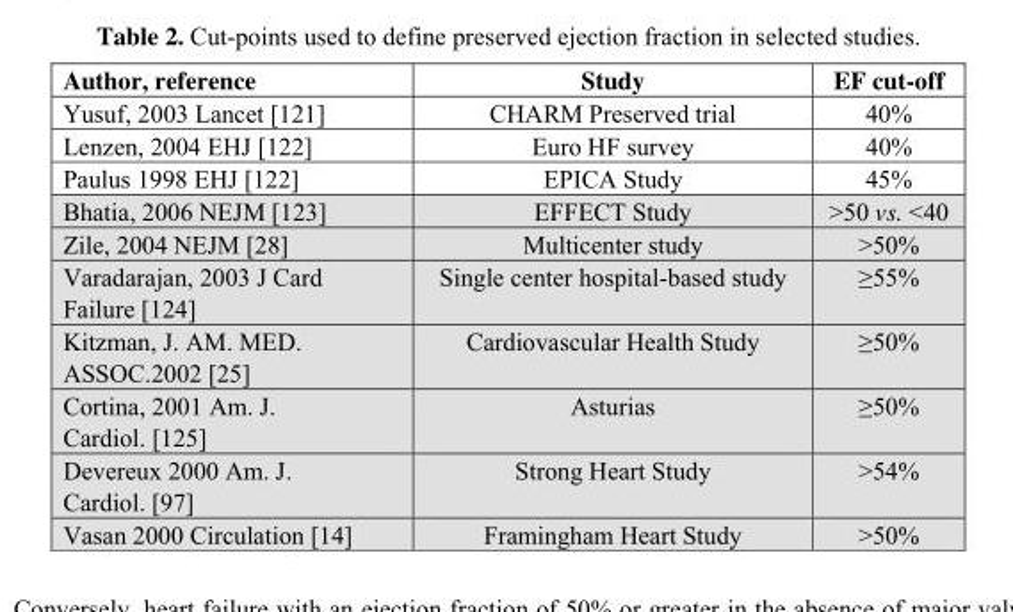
<table><thead><tr><td>Author, reference</td><td>Study</td><td>EF cut-off</td></tr></thead><tbody><tr><td>Yusuf, 2003 Lancet [121]</td><td>CHARM Preserved trial</td><td>40%</td></tr><tr><td>Lenzen, 2004 EHJ [122]</td><td>Euro HF survey</td><td>40%</td></tr><tr><td>Paulus 1998 EHJ [122]</td><td>EPICA Study</td><td>45%</td></tr><tr><td>Bhatia, 2006 NEJM [123]</td><td>EFFECT Study</td><td>&gt;50 vs. &lt;40</td></tr><tr><td>Zile, 2004 NEJM [28]</td><td>Multicenter study</td><td>&gt;50%</td></tr><tr><td>Varadarajan, 2003 J Card Failure [124]</td><td>Single center hospital-based study</td><td>≥55%</td></tr><tr><td>Kitzman, J. AM. MED. ASSOC.2002 [25]</td><td>Cardiovascular Health Study</td><td>≥50%</td></tr><tr><td>Cortina, 2001 Am. J. Cardiol. [125]</td><td>Asturias</td><td>≥50%</td></tr><tr><td>Devereux 2000 Am. J. Cardiol. [97]</td><td>Strong Heart Study</td><td>&gt;54%</td></tr><tr><td>Vasan 2000 Circulation [14]</td><td>Framingham Heart Study</td><td>&gt;50%</td></tr></tbody></table>